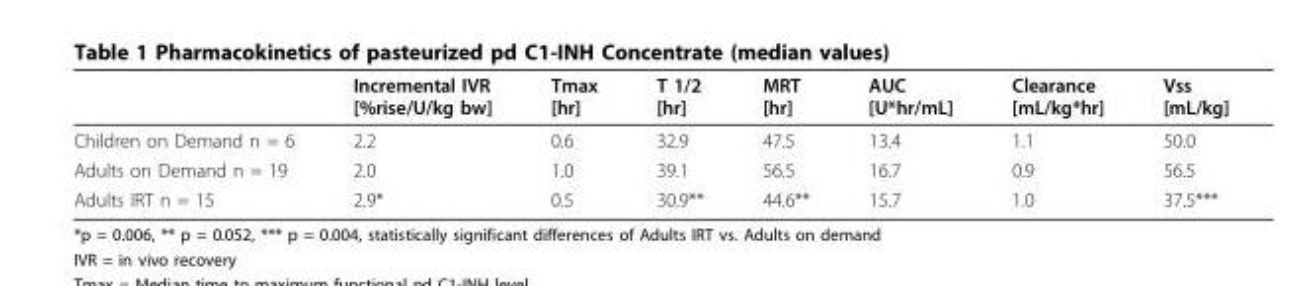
<table><thead><tr><td></td><td>Incremental IVR [%rise/U/kg bw]</td><td>Tmax [hr]</td><td>T 1/2 [hr]</td><td>MRT [hr]</td><td>AUC [U*hr/mL]</td><td>Clearance [mL/kg*hr]</td><td>Vss [mL/kg]</td></tr></thead><tbody><tr><td>Children on Demand n = 6</td><td>2.2</td><td>0.6</td><td>32.9</td><td>47.5</td><td>13.4</td><td>1.1</td><td>50.0</td></tr><tr><td>Adults on Demand n = 19</td><td>2.0</td><td>1.0</td><td>39.1</td><td>56.5</td><td>16.7</td><td>0.9</td><td>56.5</td></tr><tr><td>Adults IRT n = 15</td><td>2.9*</td><td>0.5</td><td>30.9**</td><td>44.6**</td><td>15.7</td><td>1.0</td><td>37.5***</td></tr></tbody></table>